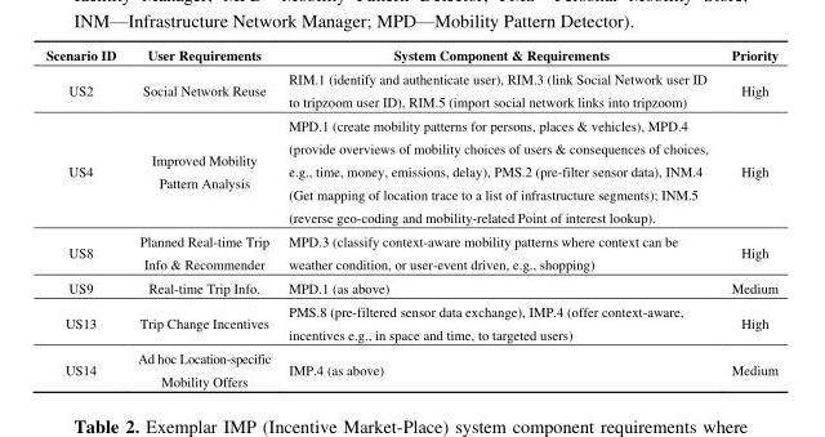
<table><thead><tr><td>Scenario ID</td><td>User Requirements</td><td>System Component &amp; Requirements</td><td>Priority</td></tr></thead><tbody><tr><td>US2</td><td>Social Network Reuse</td><td>RIM.1 (identify and authenticate user), RIM.3 (link Social Network user ID to tripzoom user ID), RIM.5 (import social network links into tripzoom)</td><td>High</td></tr><tr><td>US4</td><td>Improved Mobility Pattern Analysis</td><td>MPD.1 (create mobility patterns for persons, places &amp; vehicles), MPD.4 (provide overviews of mobility choices of users &amp; consequences of choices, e.g., time, money, emissions, delay), PMS.2 (pre-filter sensor data), INM.4 (Get mapping of location trace to a list of infrastructure segments); INM.5 (reverse geo-coding and mobility-related Point of interest lookup).</td><td>High</td></tr><tr><td>US8</td><td>Planned Real-time Trip Info &amp; Recommender</td><td>MPD.3 (classify context-aware mobility patterns where context can be weather condition, or user-event driven, e.g., shopping)</td><td>High</td></tr><tr><td>US9</td><td>Real-time Trip Info.</td><td>MPD.1 (as above)</td><td>Medium</td></tr><tr><td>US13</td><td>Trip Change Incentives</td><td>PMS.8 (pre-filtered sensor data exchange), IMP.4 (offer context-aware, incentives e.g., in space and time, to targeted users)</td><td>High</td></tr><tr><td>US14</td><td>Ad hoc Location-specific Mobility Offers</td><td>IMP.4 (as above)</td><td>Medium</td></tr></tbody></table>